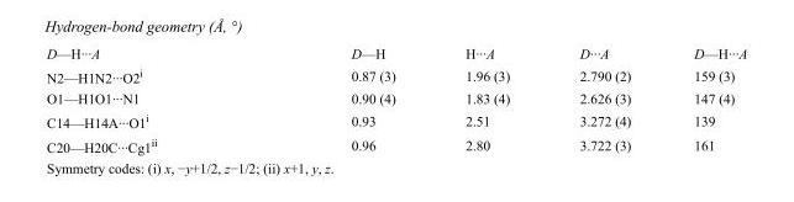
<table><tbody><tr><td>D—H···A</td><td>D—H</td><td>H···A</td><td>D···A</td><td>D—H···A</td></tr><tr><td>N2—H1N2···O2<sup>i</sup></td><td>0.87 (3)</td><td>1.96 (3)</td><td>2.790 (2)</td><td>159 (3)</td></tr><tr><td>O1—H1O1···N1</td><td>0.90 (4)</td><td>1.83 (4)</td><td>2.626 (3)</td><td>147 (4)</td></tr><tr><td>C14—H14A···O1<sup>i</sup></td><td>0.93</td><td>2.51</td><td>3.272 (4)</td><td>139</td></tr><tr><td>C20—H20C···Cg1<sup>ii</sup></td><td>0.96</td><td>2.80</td><td>3.722 (3)</td><td>161</td></tr></tbody></table>